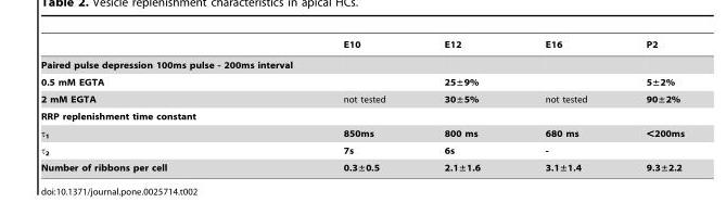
<table><thead><tr><td></td><td>E10</td><td>E12</td><td>E16</td><td>P2</td></tr></thead><tbody><tr><td colspan="5">Paired pulse depression 100ms pulse - 200ms interval</td></tr><tr><td>0.5 mM EGTA</td><td></td><td>25±9%</td><td></td><td>5±2%</td></tr><tr><td>2 mM EGTA</td><td>not tested</td><td>30±5%</td><td>not tested</td><td>90±2%</td></tr><tr><td colspan="5">RRP replenishment time constant</td></tr><tr><td>τ<sub>1</sub></td><td>850ms</td><td>800 ms</td><td>680 ms</td><td>&lt;200ms</td></tr><tr><td>τ<sub>2</sub></td><td>7s</td><td>6s</td><td>-</td><td></td></tr><tr><td>Number of ribbons per cell</td><td>0.3±0.5</td><td>2.1±1.6</td><td>3.1±1.4</td><td>9.3±2.2</td></tr></tbody></table>